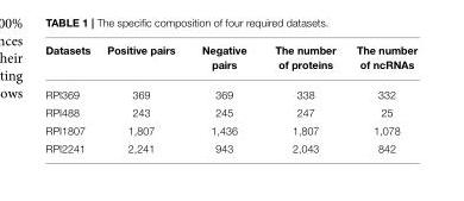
<table><thead><tr><td>Datasets</td><td>Positive pairs</td><td>Negative pairs</td><td>The number of proteins</td><td>The number of ncRNAs</td></tr></thead><tbody><tr><td>RPI369</td><td>369</td><td>369</td><td>338</td><td>332</td></tr><tr><td>RPI488</td><td>243</td><td>245</td><td>247</td><td>25</td></tr><tr><td>RPI1807</td><td>1,807</td><td>1,436</td><td>1,807</td><td>1,078</td></tr><tr><td>RPI2241</td><td>2,241</td><td>943</td><td>2,043</td><td>842</td></tr></tbody></table>